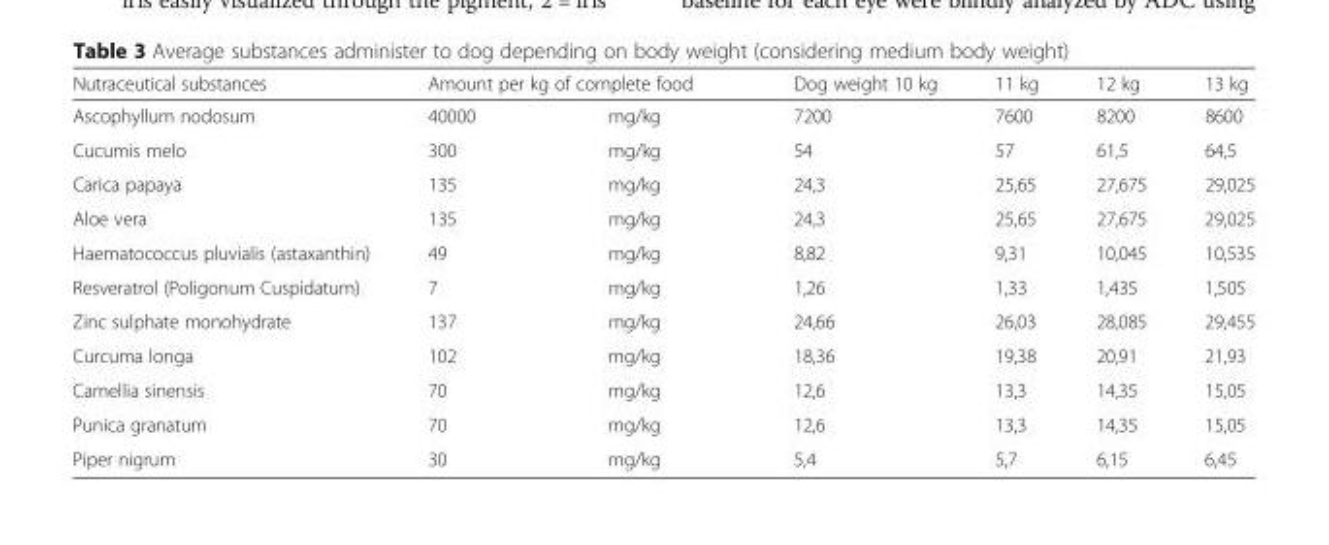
<table><thead><tr><td rowspan="2">Nutraceutical substances Ascophyllum nodosum</td><td colspan="2">Amount per kg of complete food</td><td rowspan="2">Dog weight 10 kg 7200</td><td rowspan="2">11 kg 7600</td><td rowspan="2">12 kg 8200</td><td rowspan="2">13 kg 8600</td></tr><tr><td>40000</td><td>mg/kg</td></tr></thead><tbody><tr><td>Cucumis melo</td><td>300</td><td>mg/kg</td><td>54</td><td>57</td><td>61,5</td><td>64,5</td></tr><tr><td>Carica papaya</td><td>135</td><td>mg/kg</td><td>24,3</td><td>25,65</td><td>27,675</td><td>29,025</td></tr><tr><td>Aloe vera</td><td>135</td><td>mg/kg</td><td>24,3</td><td>25,65</td><td>27,675</td><td>29,025</td></tr><tr><td>Haematococcus pluvialis (astaxanthin)</td><td>49</td><td>mg/kg</td><td>8,82</td><td>9,31</td><td>10,045</td><td>10,535</td></tr><tr><td>Resveratrol (Poligonum Cuspidatum)</td><td>7</td><td>mg/kg</td><td>1,26</td><td>1,33</td><td>1,435</td><td>1,505</td></tr><tr><td>Zinc sulphate monohydrate</td><td>137</td><td>mg/kg</td><td>24,66</td><td>26,03</td><td>28,085</td><td>29,455</td></tr><tr><td>Curcuma longa</td><td>102</td><td>mg/kg</td><td>18,36</td><td>19,38</td><td>20,91</td><td>21,93</td></tr><tr><td>Camellia sinensis</td><td>70</td><td>mg/kg</td><td>12,6</td><td>13,3</td><td>14,35</td><td>15,05</td></tr><tr><td>Punica granatum</td><td>70</td><td>mg/kg</td><td>12,6</td><td>13,3</td><td>14,35</td><td>15,05</td></tr><tr><td>Piper nigrum</td><td>30</td><td>mg/kg</td><td>5,4</td><td>5,7</td><td>6,15</td><td>6,45</td></tr></tbody></table>